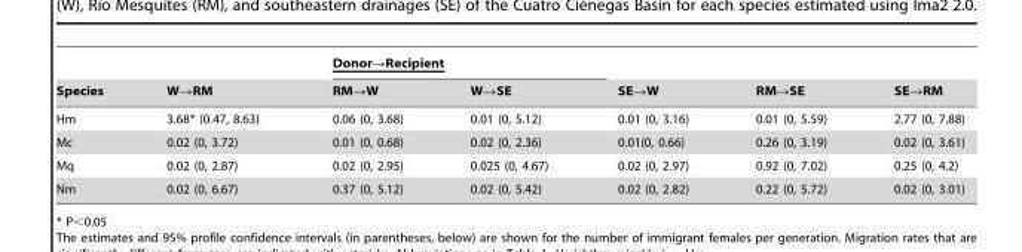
<table><thead><tr><td rowspan="2">Species</td><td rowspan="2">W→RM</td><td colspan="2">Donor→Recipient</td><td rowspan="2">SE→W</td><td rowspan="2">RM→SE</td><td rowspan="2">SE→RM</td></tr><tr><td>RM→W</td><td>W→SE</td></tr></thead><tbody><tr><td>Hm</td><td>3.68* (0.47, 8.63)</td><td>0.06 (0, 3.68)</td><td>0.01 (0, 5.12)</td><td>0.01 (0, 3.16)</td><td>0.01 (0, 5.59)</td><td>2.77 (0, 7.88)</td></tr><tr><td>Mc</td><td>0.02 (0, 3.72)</td><td>0.01 (0, 0.68)</td><td>0.02 (0, 2.36)</td><td>0.01(0, 0.66)</td><td>0.26 (0, 3.19)</td><td>0.02 (0, 3.61)</td></tr><tr><td>Mq</td><td>0.02 (0, 2.87)</td><td>0.02 (0, 2.95)</td><td>0.025 (0, 4.67)</td><td>0.02 (0, 2.97)</td><td>0.92 (0, 7.02)</td><td>0.25 (0, 4.2)</td></tr><tr><td>Nm</td><td>0.02 (0, 6.67)</td><td>0.37 (0, 5.12)</td><td>0.02 (0, 5.42)</td><td>0.02 (0, 2.82)</td><td>0.22 (0, 5.72)</td><td>0.02 (0, 3.01)</td></tr></tbody></table>